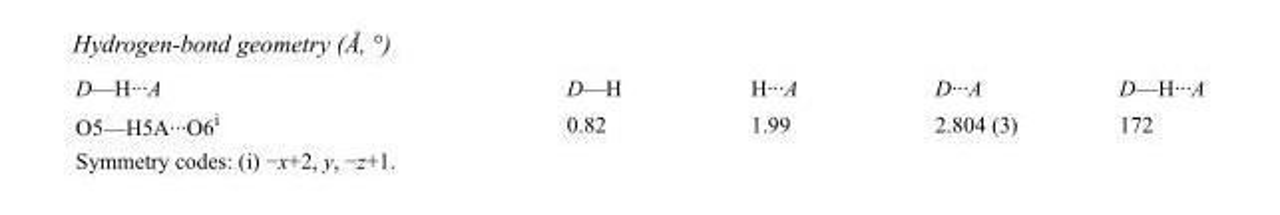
<table><tbody><tr><td>D—H···A</td><td>D—H</td><td>H···A</td><td>D···A</td><td>D—H···A</td></tr><tr><td>O5—H5A···O6<sup>i</sup></td><td>0.82</td><td>1.99</td><td>2.804 (3)</td><td>172</td></tr></tbody></table>